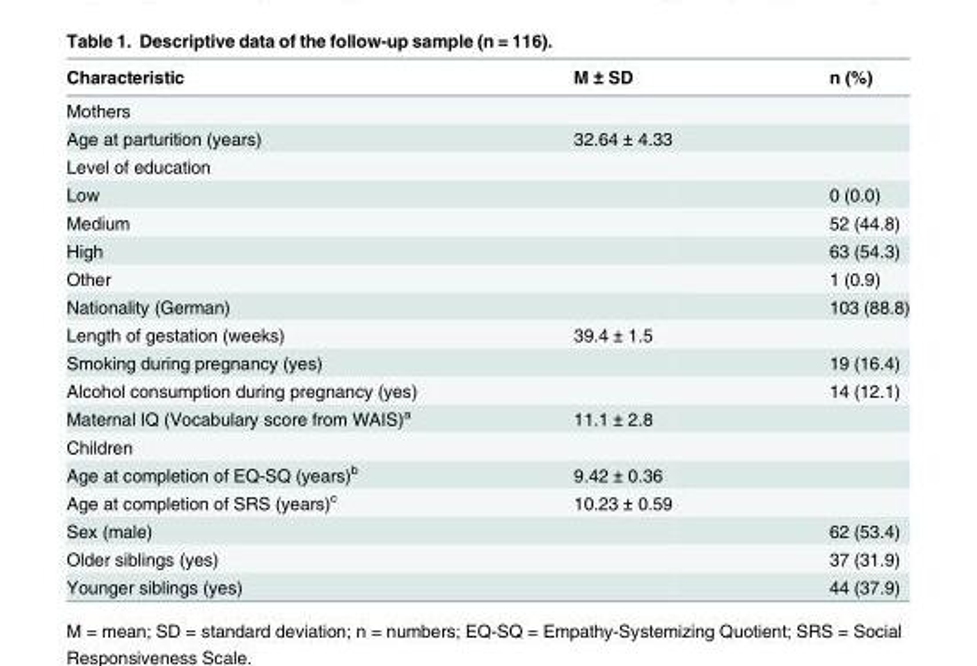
<table><thead><tr><td>Characteristic</td><td>M ± SD</td><td>n (%)</td></tr></thead><tbody><tr><td colspan="3">Mothers</td></tr><tr><td>Age at parturition (years)</td><td>32.64 ± 4.33</td><td></td></tr><tr><td colspan="3">Level of education</td></tr><tr><td>Low</td><td></td><td>0 (0.0)</td></tr><tr><td>Medium</td><td></td><td>52 (44.8)</td></tr><tr><td>High</td><td></td><td>63 (54.3)</td></tr><tr><td>Other</td><td></td><td>1 (0.9)</td></tr><tr><td>Nationality (German)</td><td></td><td>103 (88.8)</td></tr><tr><td>Length of gestation (weeks)</td><td>39.4 ± 1.5</td><td></td></tr><tr><td>Smoking during pregnancy (yes)</td><td></td><td>19 (16.4)</td></tr><tr><td>Alcohol consumption during pregnancy (yes)</td><td></td><td>14 (12.1)</td></tr><tr><td>Maternal IQ (Vocabulary score from WAIS)<sup>a</sup></td><td>11.1 ± 2.8</td><td></td></tr><tr><td colspan="3">Children</td></tr><tr><td>Age at completion of EQ-SQ (years)<sup>b</sup></td><td>9.42 ± 0.36</td><td></td></tr><tr><td>Age at completion of SRS (years)<sup>c</sup></td><td>10.23 ± 0.59</td><td></td></tr><tr><td>Sex (male)</td><td></td><td>62 (53.4)</td></tr><tr><td>Older siblings (yes)</td><td></td><td>37 (31.9)</td></tr><tr><td>Younger siblings (yes)</td><td></td><td>44 (37.9)</td></tr></tbody></table>